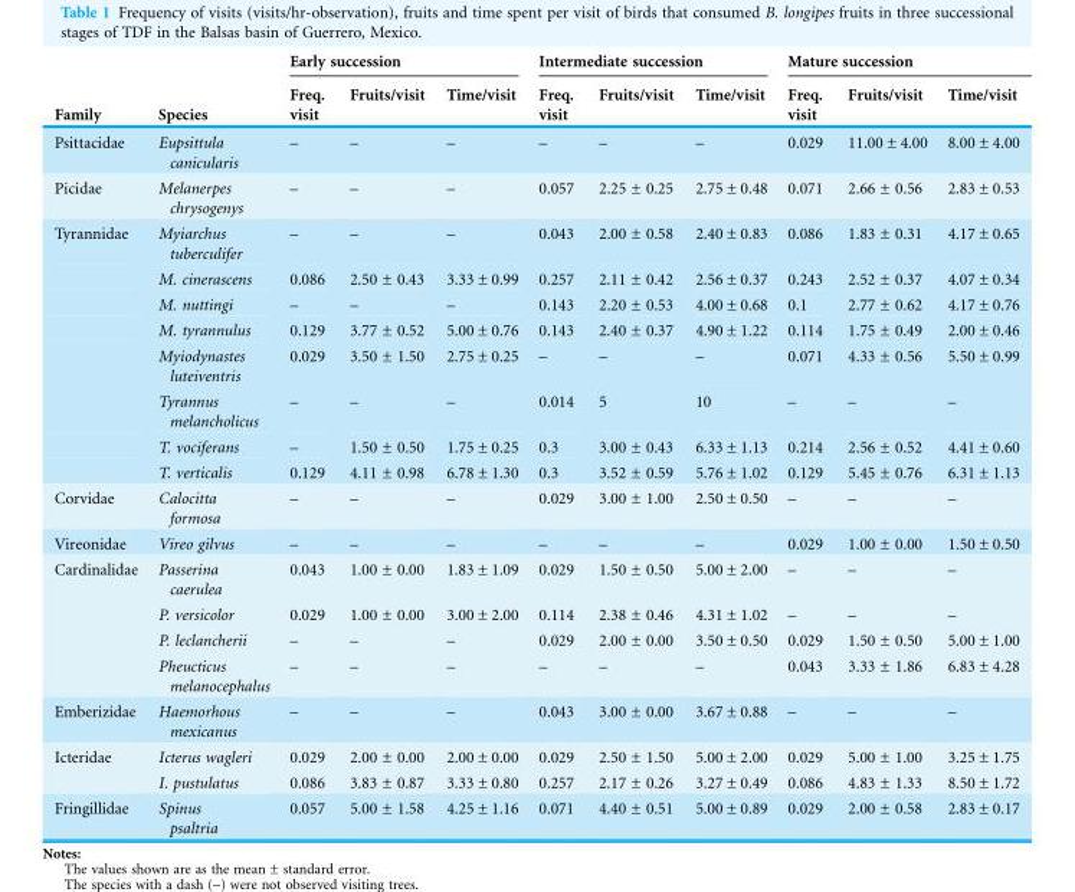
<table><thead><tr><td rowspan="2">Family</td><td rowspan="2">Species</td><td colspan="3">Early succession</td><td colspan="3">Intermediate succession</td><td colspan="3">Mature succession</td></tr><tr><td>Freq. visit</td><td>Fruits/visit</td><td>Time/visit</td><td>Freq. visit</td><td>Fruits/visit</td><td>Time/visit</td><td>Freq. visit</td><td>Fruits/visit</td><td>Time/visit</td></tr></thead><tbody><tr><td>Psittacidae</td><td>Eupsittula canicularis</td><td>–</td><td>–</td><td>–</td><td>–</td><td>–</td><td>–</td><td>0.029</td><td>11.00 ± 4.00</td><td>8.00 ± 4.00</td></tr><tr><td>Picidae</td><td>Melanerpes chrysogenys</td><td>–</td><td>–</td><td>–</td><td>0.057</td><td>2.25 ± 0.25</td><td>2.75 ± 0.48</td><td>0.071</td><td>2.66 ± 0.56</td><td>2.83 ± 0.53</td></tr><tr><td rowspan="8">Tyrannidae</td><td>Myiarchus tuberculifer</td><td>–</td><td>–</td><td>–</td><td>0.043</td><td>2.00 ± 0.58</td><td>2.40 ± 0.83</td><td>0.086</td><td>1.83 ± 0.31</td><td>4.17 ± 0.65</td></tr><tr><td>M. cinerascens</td><td>0.086</td><td>2.50 ± 0.43</td><td>3.33 ± 0.99</td><td>0.257</td><td>2.11 ± 0.42</td><td>2.56 ± 0.37</td><td>0.243</td><td>2.52 ± 0.37</td><td>4.07 ± 0.34</td></tr><tr><td>M. nuttingi</td><td>–</td><td>–</td><td>–</td><td>0.143</td><td>2.20 ± 0.53</td><td>4.00 ± 0.68</td><td>0.1</td><td>2.77 ± 0.62</td><td>4.17 ± 0.76</td></tr><tr><td>M. tyrannulus</td><td>0.129</td><td>3.77 ± 0.52</td><td>5.00 ± 0.76</td><td>0.143</td><td>2.40 ± 0.37</td><td>4.90 ± 1.22</td><td>0.114</td><td>1.75 ± 0.49</td><td>2.00 ± 0.46</td></tr><tr><td>Myiodynastes luteiventris</td><td>0.029</td><td>3.50 ± 1.50</td><td>2.75 ± 0.25</td><td>–</td><td>–</td><td>–</td><td>0.071</td><td>4.33 ± 0.56</td><td>5.50 ± 0.99</td></tr><tr><td>Tyrannus melancholicus</td><td>–</td><td>–</td><td>–</td><td>0.014</td><td>5</td><td>10</td><td>–</td><td>–</td><td>–</td></tr><tr><td>T. vociferans</td><td>–</td><td>1.50 ± 0.50</td><td>1.75 ± 0.25</td><td>0.3</td><td>3.00 ± 0.43</td><td>6.33 ± 1.13</td><td>0.214</td><td>2.56 ± 0.52</td><td>4.41 ± 0.60</td></tr><tr><td>T. verticalis</td><td>0.129</td><td>4.11 ± 0.98</td><td>6.78 ± 1.30</td><td>0.3</td><td>3.52 ± 0.59</td><td>5.76 ± 1.02</td><td>0.129</td><td>5.45 ± 0.76</td><td>6.31 ± 1.13</td></tr><tr><td>Corvidae</td><td>Calocitta formosa</td><td>–</td><td>–</td><td>–</td><td>0.029</td><td>3.00 ± 1.00</td><td>2.50 ± 0.50</td><td>–</td><td>–</td><td>–</td></tr><tr><td>Vireonidae</td><td>Vireo gilvus</td><td>–</td><td>–</td><td>–</td><td>–</td><td>–</td><td>–</td><td>0.029</td><td>1.00 ± 0.00</td><td>1.50 ± 0.50</td></tr><tr><td rowspan="4">Cardinalidae</td><td>Passerina caerulea</td><td>0.043</td><td>1.00 ± 0.00</td><td>1.83 ± 1.09</td><td>0.029</td><td>1.50 ± 0.50</td><td>5.00 ± 2.00</td><td>–</td><td>–</td><td>–</td></tr><tr><td>P. versicolor</td><td>0.029</td><td>1.00 ± 0.00</td><td>3.00 ± 2.00</td><td>0.114</td><td>2.38 ± 0.46</td><td>4.31 ± 1.02</td><td>–</td><td>–</td><td>–</td></tr><tr><td>P. leclancherii</td><td>–</td><td>–</td><td>–</td><td>0.029</td><td>2.00 ± 0.00</td><td>3.50 ± 0.50</td><td>0.029</td><td>1.50 ± 0.50</td><td>5.00 ± 1.00</td></tr><tr><td>Pheucticus melanocephalus</td><td>–</td><td>–</td><td>–</td><td>–</td><td>–</td><td>–</td><td>0.043</td><td>3.33 ± 1.86</td><td>6.83 ± 4.28</td></tr><tr><td>Emberizidae</td><td>Haemorhous mexicanus</td><td>–</td><td>–</td><td>–</td><td>0.043</td><td>3.00 ± 0.00</td><td>3.67 ± 0.88</td><td>–</td><td>–</td><td>–</td></tr><tr><td rowspan="2">Icteridae</td><td>Icterus wagleri</td><td>0.029</td><td>2.00 ± 0.00</td><td>2.00 ± 0.00</td><td>0.029</td><td>2.50 ± 1.50</td><td>5.00 ± 2.00</td><td>0.029</td><td>5.00 ± 1.00</td><td>3.25 ± 1.75</td></tr><tr><td>I. pustulatus</td><td>0.086</td><td>3.83 ± 0.87</td><td>3.33 ± 0.80</td><td>0.257</td><td>2.17 ± 0.26</td><td>3.27 ± 0.49</td><td>0.086</td><td>4.83 ± 1.33</td><td>8.50 ± 1.72</td></tr><tr><td>Fringillidae</td><td>Spinus psaltria</td><td>0.057</td><td>5.00 ± 1.58</td><td>4.25 ± 1.16</td><td>0.071</td><td>4.40 ± 0.51</td><td>5.00 ± 0.89</td><td>0.029</td><td>2.00 ± 0.58</td><td>2.83 ± 0.17</td></tr></tbody></table>